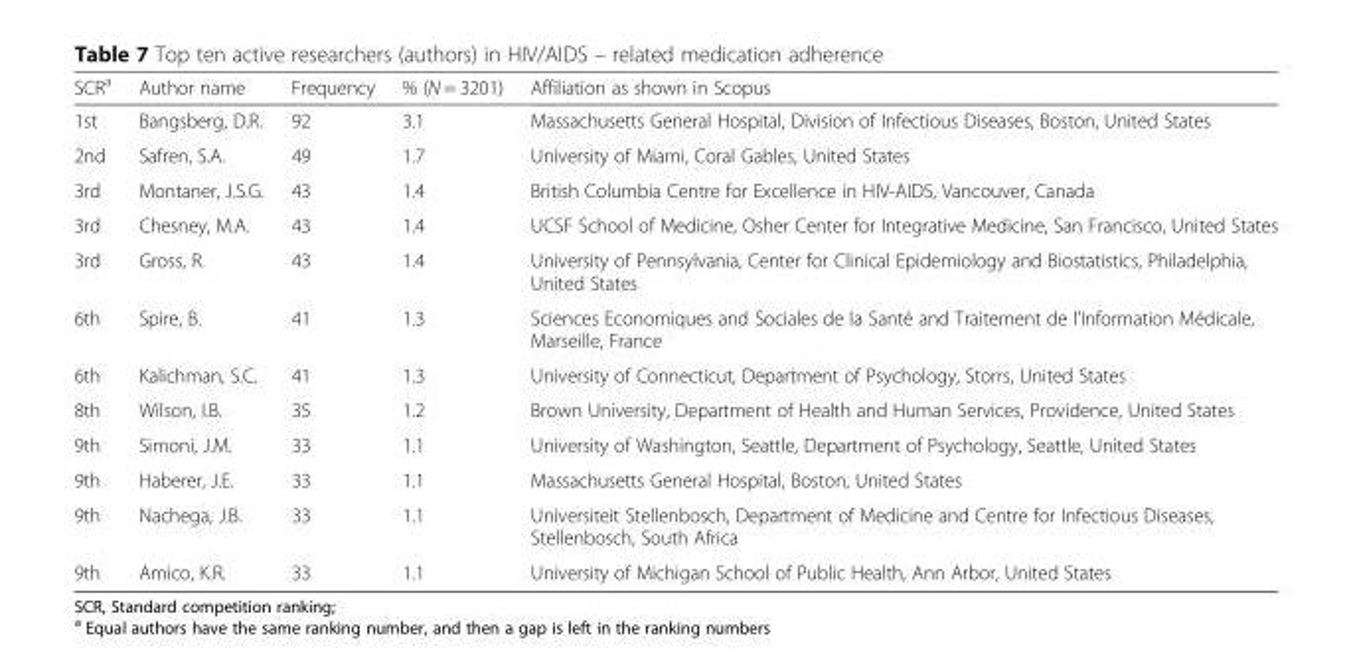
<table><thead><tr><td>SCR<sup>a</sup></td><td>Author name</td><td>Frequency</td><td>% (N = 3201)</td><td>Affiliation as shown in Scopus</td></tr></thead><tbody><tr><td>1st</td><td>Bangsberg, D.R.</td><td>92</td><td>3.1</td><td>Massachusetts General Hospital, Division of Infectious Diseases, Boston, United States</td></tr><tr><td>2nd</td><td>Safren, S.A.</td><td>49</td><td>1.7</td><td>University of Miami, Coral Gables, United States</td></tr><tr><td>3rd</td><td>Montaner, J.S.G.</td><td>43</td><td>1.4</td><td>British Columbia Centre for Excellence in HIV-AIDS, Vancouver, Canada</td></tr><tr><td>3rd</td><td>Chesney, M.A.</td><td>43</td><td>1.4</td><td>UCSF School of Medicine, Osher Center for Integrative Medicine, San Francisco, United States</td></tr><tr><td>3rd</td><td>Gross, R.</td><td>43</td><td>1.4</td><td>University of Pennsylvania, Center for Clinical Epidemiology and Biostatistics, Philadelphia, United States</td></tr><tr><td>6th</td><td>Spire, B.</td><td>41</td><td>1.3</td><td>Sciences Economiques and Sociales de la Santé and Traitement de l’Information Médicale, Marseille, France</td></tr><tr><td>6th</td><td>Kalichman, S.C.</td><td>41</td><td>1.3</td><td>University of Connecticut, Department of Psychology, Storrs, United States</td></tr><tr><td>8th</td><td>Wilson, I.B.</td><td>35</td><td>1.2</td><td>Brown University, Department of Health and Human Services, Providence, United States</td></tr><tr><td>9th</td><td>Simoni, J.M.</td><td>33</td><td>1.1</td><td>University of Washington, Seattle, Department of Psychology, Seattle, United States</td></tr><tr><td>9th</td><td>Haberer, J.E.</td><td>33</td><td>1.1</td><td>Massachusetts General Hospital, Boston, United States</td></tr><tr><td>9th</td><td>Nachega, J.B.</td><td>33</td><td>1.1</td><td>Universiteit Stellenbosch, Department of Medicine and Centre for Infectious Diseases, Stellenbosch, South Africa</td></tr><tr><td>9th</td><td>Amico, K.R.</td><td>33</td><td>1.1</td><td>University of Michigan School of Public Health, Ann Arbor, United States</td></tr></tbody></table>